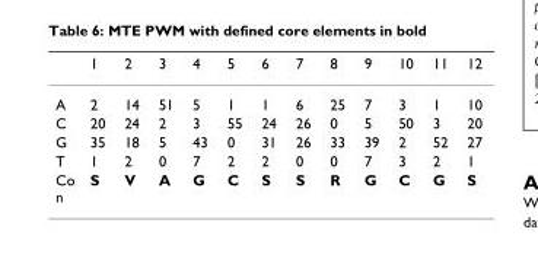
<table><thead><tr><td></td><td>1</td><td>2</td><td>3</td><td>4</td><td>5</td><td>6</td><td>7</td><td>8</td><td>9</td><td>10</td><td>11</td><td>12</td></tr></thead><tbody><tr><td>A</td><td>2</td><td>14</td><td>51</td><td>5</td><td>1</td><td>1</td><td>6</td><td>25</td><td>7</td><td>3</td><td>1</td><td>10</td></tr><tr><td>C</td><td>20</td><td>24</td><td>2</td><td>3</td><td>55</td><td>24</td><td>26</td><td>0</td><td>5</td><td>50</td><td>3</td><td>20</td></tr><tr><td>G</td><td>35</td><td>18</td><td>5</td><td>43</td><td>0</td><td>31</td><td>26</td><td>33</td><td>39</td><td>2</td><td>52</td><td>27</td></tr><tr><td>T</td><td>1</td><td>2</td><td>0</td><td>7</td><td>2</td><td>2</td><td>0</td><td>0</td><td>7</td><td>3</td><td>2</td><td>1</td></tr><tr><td>Co n</td><td>S</td><td>V</td><td>A</td><td>G</td><td>C</td><td>S</td><td>S</td><td>R</td><td>G</td><td>C</td><td>G</td><td>S</td></tr></tbody></table>